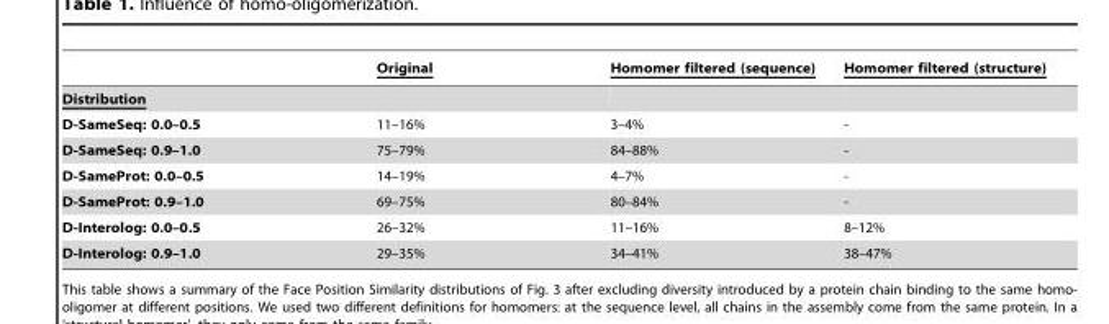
<table><thead><tr><td></td><td>Original</td><td>Homomer filtered (sequence)</td><td>Homomer filtered (structure)</td></tr></thead><tbody><tr><td colspan="4">Distribution</td></tr><tr><td>D-SameSeq: 0.0–0.5</td><td>11–16%</td><td>3–4%</td><td>-</td></tr><tr><td>D-SameSeq: 0.9–1.0</td><td>75–79%</td><td>84–88%</td><td>-</td></tr><tr><td>D-SameProt: 0.0–0.5</td><td>14–19%</td><td>4–7%</td><td>-</td></tr><tr><td>D-SameProt: 0.9–1.0</td><td>69–75%</td><td>80–84%</td><td>-</td></tr><tr><td>D-Interolog: 0.0–0.5</td><td>26–32%</td><td>11–16%</td><td>8–12%</td></tr><tr><td>D-Interolog: 0.9–1.0</td><td>29–35%</td><td>34–41%</td><td>38–47%</td></tr></tbody></table>